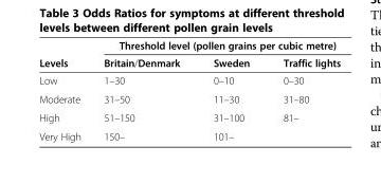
<table><thead><tr><td rowspan="2">Levels</td><td colspan="3">Threshold level (pollen grains per cubic metre)</td></tr><tr><td>Britain/Denmark</td><td>Sweden</td><td>Traffic lights</td></tr></thead><tbody><tr><td>Low</td><td>1–30</td><td>0–10</td><td>0–30</td></tr><tr><td>Moderate</td><td>31–50</td><td>11–30</td><td>31–80</td></tr><tr><td>High</td><td>51–150</td><td>31–100</td><td>81–</td></tr><tr><td>Very High</td><td>150–</td><td>101–</td><td></td></tr></tbody></table>